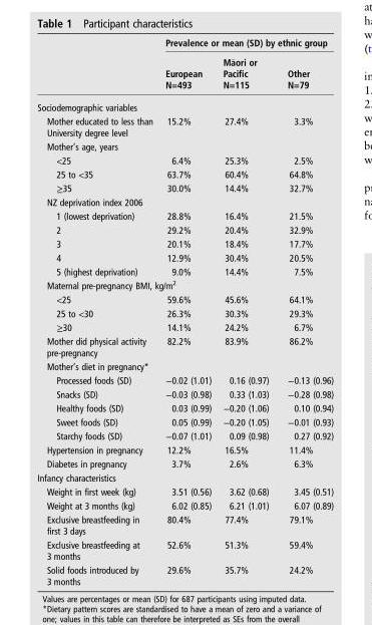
<table><thead><tr><td rowspan="2"></td><td colspan="3">Prevalence or mean (SD) by ethnic group</td></tr><tr><td>European N=493</td><td>M�aori or Pacific N=115</td><td>Other N=79</td></tr></thead><tbody><tr><td colspan="4">Sociodemographic variables</td></tr><tr><td>Mother educated to less than University degree level</td><td>15.2%</td><td>27.4%</td><td>3.3%</td></tr><tr><td colspan="4">Mother’s age, years</td></tr><tr><td>&lt;25</td><td>6.4%</td><td>25.3%</td><td>2.5%</td></tr><tr><td>25 to &lt;35</td><td>63.7%</td><td>60.4%</td><td>64.8%</td></tr><tr><td>≥35</td><td>30.0%</td><td>14.4%</td><td>32.7%</td></tr><tr><td colspan="4">NZ deprivation index 2006</td></tr><tr><td>1 (lowest deprivation)</td><td>28.8%</td><td>16.4%</td><td>21.5%</td></tr><tr><td>2</td><td>29.2%</td><td>20.4%</td><td>32.9%</td></tr><tr><td>3</td><td>20.1%</td><td>18.4%</td><td>17.7%</td></tr><tr><td>4</td><td>12.9%</td><td>30.4%</td><td>20.5%</td></tr><tr><td>5 (highest deprivation)</td><td>9.0%</td><td>14.4%</td><td>7.5%</td></tr><tr><td colspan="4">Maternal pre-pregnancy BMI, kg/m<sup>2</sup></td></tr><tr><td>&lt;25</td><td>59.6%</td><td>45.6%</td><td>64.1%</td></tr><tr><td>25 to &lt;30</td><td>26.3%</td><td>30.3%</td><td>29.3%</td></tr><tr><td>≥30</td><td>14.1%</td><td>24.2%</td><td>6.7%</td></tr><tr><td>Mother did physical activity pre-pregnancy</td><td>82.2%</td><td>83.9%</td><td>86.2%</td></tr><tr><td colspan="4">Mother’s diet in pregnancy*</td></tr><tr><td>Processed foods (SD)</td><td>−0.02 (1.01)</td><td>0.16 (0.97)</td><td>−0.13 (0.96)</td></tr><tr><td>Snacks (SD)</td><td>−0.03 (0.98)</td><td>0.33 (1.03)</td><td>−0.28 (0.98)</td></tr><tr><td>Healthy foods (SD)</td><td>0.03 (0.99)</td><td>−0.20 (1.06)</td><td>0.10 (0.94)</td></tr><tr><td>Sweet foods (SD)</td><td>0.05 (0.99)</td><td>−0.20 (1.05)</td><td>−0.01 (0.93)</td></tr><tr><td>Starchy foods (SD)</td><td>−0.07 (1.01)</td><td>0.09 (0.98)</td><td>0.27 (0.92)</td></tr><tr><td>Hypertension in pregnancy</td><td>12.2%</td><td>16.5%</td><td>11.4%</td></tr><tr><td>Diabetes in pregnancy</td><td>3.7%</td><td>2.6%</td><td>6.3%</td></tr><tr><td colspan="4">Infancy characteristics</td></tr><tr><td>Weight in first week (kg)</td><td>3.51 (0.56)</td><td>3.62 (0.68)</td><td>3.45 (0.51)</td></tr><tr><td>Weight at 3 months (kg)</td><td>6.02 (0.85)</td><td>6.21 (1.01)</td><td>6.07 (0.89)</td></tr><tr><td>Exclusive breastfeeding in first 3 days</td><td>80.4%</td><td>77.4%</td><td>79.1%</td></tr><tr><td>Exclusive breastfeeding at 3 months</td><td>52.6%</td><td>51.3%</td><td>59.4%</td></tr><tr><td>Solid foods introduced by 3 months</td><td>29.6%</td><td>35.7%</td><td>24.2%</td></tr></tbody></table>